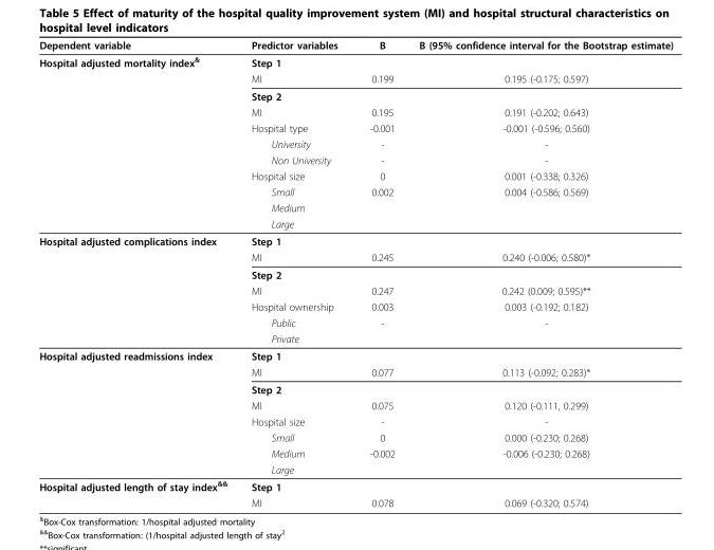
<table><thead><tr><td>Dependent variable</td><td>Predictor variables</td><td>B</td><td>B (95% confidence interval for the Bootstrap estimate)</td></tr></thead><tbody><tr><td rowspan="11">Hospital adjusted mortality index<sup>&amp;</sup></td><td>Step 1</td><td></td><td></td></tr><tr><td>MI</td><td>0.199</td><td>0.195 (-0.175; 0.597)</td></tr><tr><td>Step 2</td><td></td><td></td></tr><tr><td>MI</td><td>0.195</td><td>0.191 (-0.202; 0.643)</td></tr><tr><td>Hospital type</td><td>-0.001</td><td>-0.001 (-0.596; 0.560)</td></tr><tr><td>University</td><td>-</td><td>-</td></tr><tr><td>Non University</td><td>-</td><td>-</td></tr><tr><td>Hospital size</td><td>0</td><td>0.001 (-0.338; 0.326)</td></tr><tr><td>Small</td><td>0.002</td><td>0.004 (-0.586; 0.569)</td></tr><tr><td>Medium</td><td></td><td></td></tr><tr><td>Large</td><td></td><td></td></tr><tr><td rowspan="7">Hospital adjusted complications index</td><td>Step 1</td><td></td><td></td></tr><tr><td>MI</td><td>0.245</td><td>0.240 (-0.006; 0.580)*</td></tr><tr><td>Step 2</td><td></td><td></td></tr><tr><td>MI</td><td>0.247</td><td>0.242 (0.009; 0.595)**</td></tr><tr><td>Hospital ownership</td><td>0.003</td><td>0.003 (-0.192; 0.182)</td></tr><tr><td>Public</td><td>-</td><td>-</td></tr><tr><td>Private</td><td></td><td></td></tr><tr><td rowspan="8">Hospital adjusted readmissions index</td><td>Step 1</td><td></td><td></td></tr><tr><td>MI</td><td>0.077</td><td>0.113 (-0.092; 0.283)*</td></tr><tr><td>Step 2</td><td></td><td></td></tr><tr><td>MI</td><td>0.075</td><td>0.120 (-0.111, 0.299)</td></tr><tr><td>Hospital size</td><td>-</td><td>-</td></tr><tr><td>Small</td><td>0</td><td>0.000 (-0.230; 0.268)</td></tr><tr><td>Medium</td><td>-0.002</td><td>-0.006 (-0.230; 0.268)</td></tr><tr><td>Large</td><td></td><td></td></tr><tr><td rowspan="2">Hospital adjusted length of stay index<sup>&amp;&amp;</sup></td><td>Step 1</td><td></td><td></td></tr><tr><td>MI</td><td>0.078</td><td>0.069 (-0.320; 0.574)</td></tr></tbody></table>